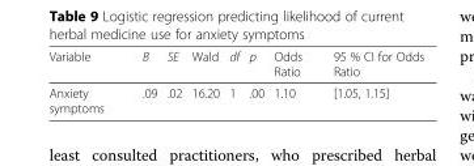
<table><thead><tr><td>Variable</td><td>B</td><td>SE</td><td>Wald</td><td>df</td><td>p</td><td>Odds Ratio</td><td>95 % CI for Odds Ratio</td></tr></thead><tbody><tr><td>Anxiety symptoms</td><td>.09</td><td>.02</td><td>16.20</td><td>1</td><td>.00</td><td>1.10</td><td>[1.05, 1.15]</td></tr></tbody></table>